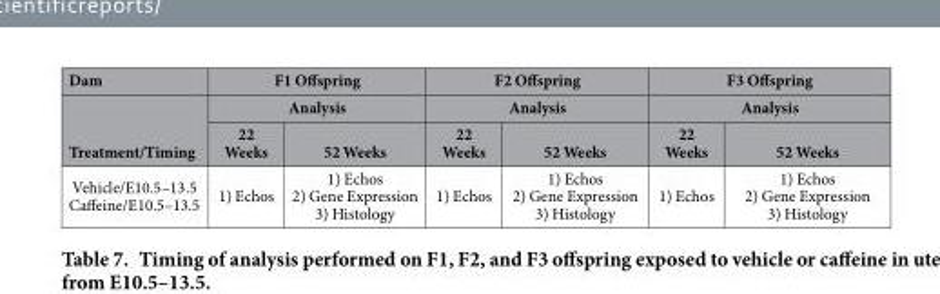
<table><thead><tr><td rowspan="3">Dam Treatment/Timing</td><td rowspan="2" colspan="2">F1 Offspring Analysis</td><td rowspan="2" colspan="2">F2 Offspring Analysis</td><td rowspan="2" colspan="2">F3 Offspring Analysis</td></tr><tr></tr><tr><td>22 Weeks</td><td>52 Weeks</td><td>22 Weeks</td><td>52 Weeks</td><td>22 Weeks</td><td>52 Weeks</td></tr></thead><tbody><tr><td>Vehicle/E10.5–13.5 Caffeine/E10.5–13.5</td><td>1) Echos</td><td>1) Echos 2) Gene Expression 3) Histology</td><td>1) Echos</td><td>1) Echos 2) Gene Expression 3) Histology</td><td>1) Echos</td><td>1) Echos 2) Gene Expression 3) Histology</td></tr></tbody></table>